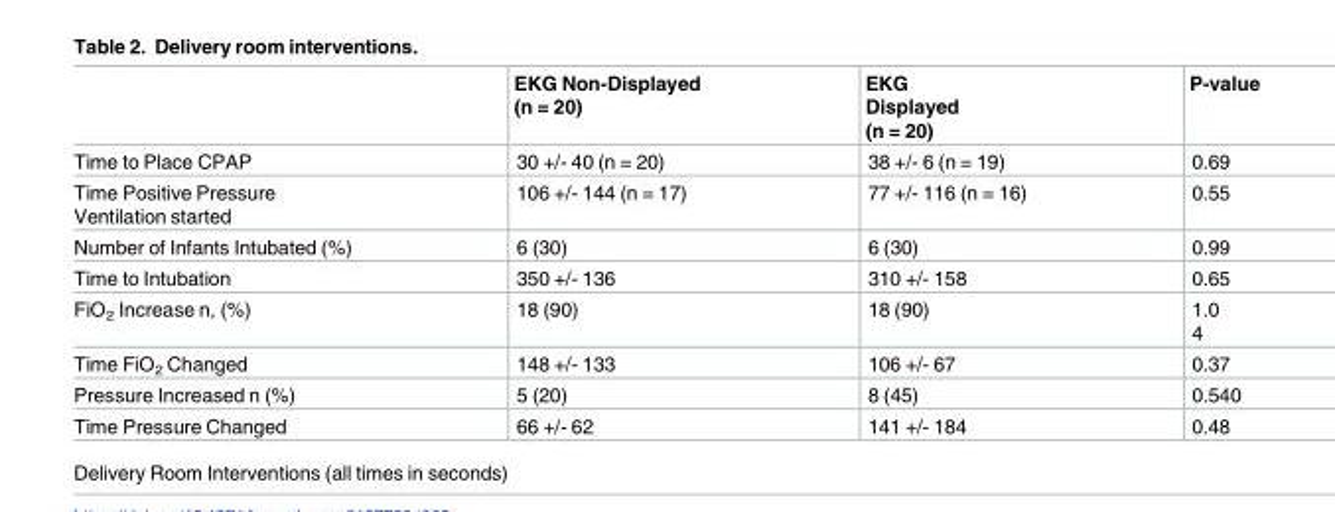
<table><thead><tr><td></td><td>EKG Non-Displayed (n = 20)</td><td>EKG Displayed (n = 20)</td><td>P-value</td></tr></thead><tbody><tr><td>Time to Place CPAP</td><td>30 +/- 40 (n = 20)</td><td>38 +/- 6 (n = 19)</td><td>0.69</td></tr><tr><td>Time Positive Pressure Ventilation started</td><td>106 +/- 144 (n = 17)</td><td>77 +/- 116 (n = 16)</td><td>0.55</td></tr><tr><td>Number of Infants Intubated (%)</td><td>6 (30)</td><td>6 (30)</td><td>0.99</td></tr><tr><td>Time to Intubation</td><td>350 +/- 136</td><td>310 +/- 158</td><td>0.65</td></tr><tr><td>FiO<sub>2</sub> Increase n, (%)</td><td>18 (90)</td><td>18 (90)</td><td>1.0 4</td></tr><tr><td>Time FiO<sub>2</sub> Changed</td><td>148 +/- 133</td><td>106 +/- 67</td><td>0.37</td></tr><tr><td>Pressure Increased n (%)</td><td>5 (20)</td><td>8 (45)</td><td>0.540</td></tr><tr><td>Time Pressure Changed</td><td>66 +/- 62</td><td>141 +/- 184</td><td>0.48</td></tr></tbody></table>